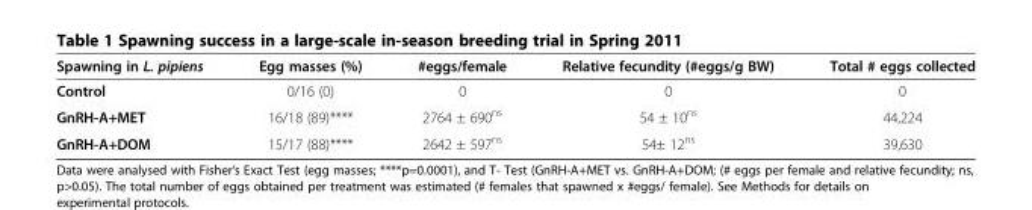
<table><thead><tr><td>Spawning in L. pipiens</td><td>Egg masses (%)</td><td>#eggs/female</td><td>Relative fecundity (#eggs/g BW)</td><td>Total # eggs collected</td></tr></thead><tbody><tr><td>Control</td><td>0/16 (0)</td><td>0</td><td>0</td><td>0</td></tr><tr><td>GnRH-A+MET</td><td>16/18 (89)****</td><td>2764 ± 690<sup>ns</sup></td><td>54 ± 10<sup>ns</sup></td><td>44,224</td></tr><tr><td>GnRH-A+DOM</td><td>15/17 (88)****</td><td>2642 ± 597<sup>ns</sup></td><td>54± 12<sup>ns</sup></td><td>39,630</td></tr></tbody></table>